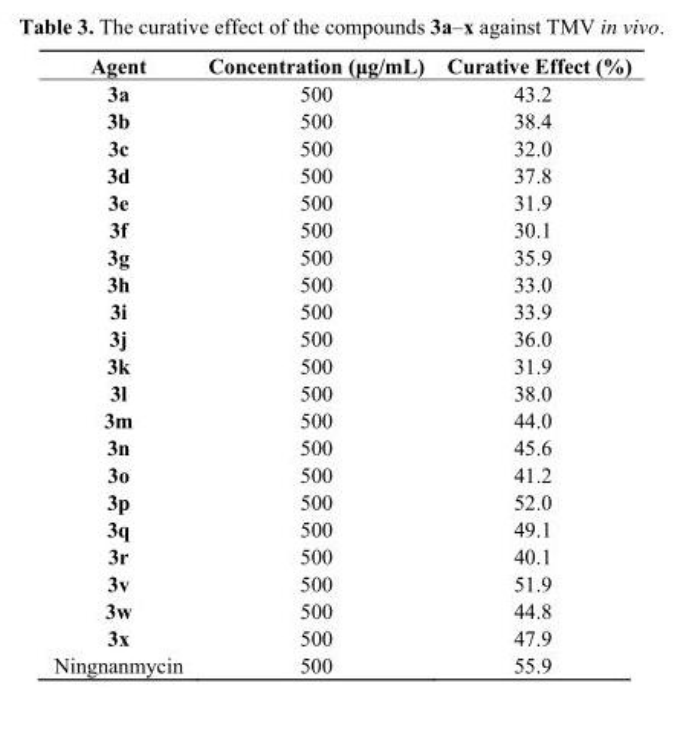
<table><thead><tr><td>Agent</td><td>Concentration (μg/mL)</td><td>Curative Effect (%)</td></tr></thead><tbody><tr><td>3a</td><td>500</td><td>43.2</td></tr><tr><td>3b</td><td>500</td><td>38.4</td></tr><tr><td>3c</td><td>500</td><td>32.0</td></tr><tr><td>3d</td><td>500</td><td>37.8</td></tr><tr><td>3e</td><td>500</td><td>31.9</td></tr><tr><td>3f</td><td>500</td><td>30.1</td></tr><tr><td>3g</td><td>500</td><td>35.9</td></tr><tr><td>3h</td><td>500</td><td>33.0</td></tr><tr><td>3i</td><td>500</td><td>33.9</td></tr><tr><td>3j</td><td>500</td><td>36.0</td></tr><tr><td>3k</td><td>500</td><td>31.9</td></tr><tr><td>3l</td><td>500</td><td>38.0</td></tr><tr><td>3m</td><td>500</td><td>44.0</td></tr><tr><td>3n</td><td>500</td><td>45.6</td></tr><tr><td>3o</td><td>500</td><td>41.2</td></tr><tr><td>3p</td><td>500</td><td>52.0</td></tr><tr><td>3q</td><td>500</td><td>49.1</td></tr><tr><td>3r</td><td>500</td><td>40.1</td></tr><tr><td>3v</td><td>500</td><td>51.9</td></tr><tr><td>3w</td><td>500</td><td>44.8</td></tr><tr><td>3x</td><td>500</td><td>47.9</td></tr><tr><td>Ningnanmycin</td><td>500</td><td>55.9</td></tr></tbody></table>